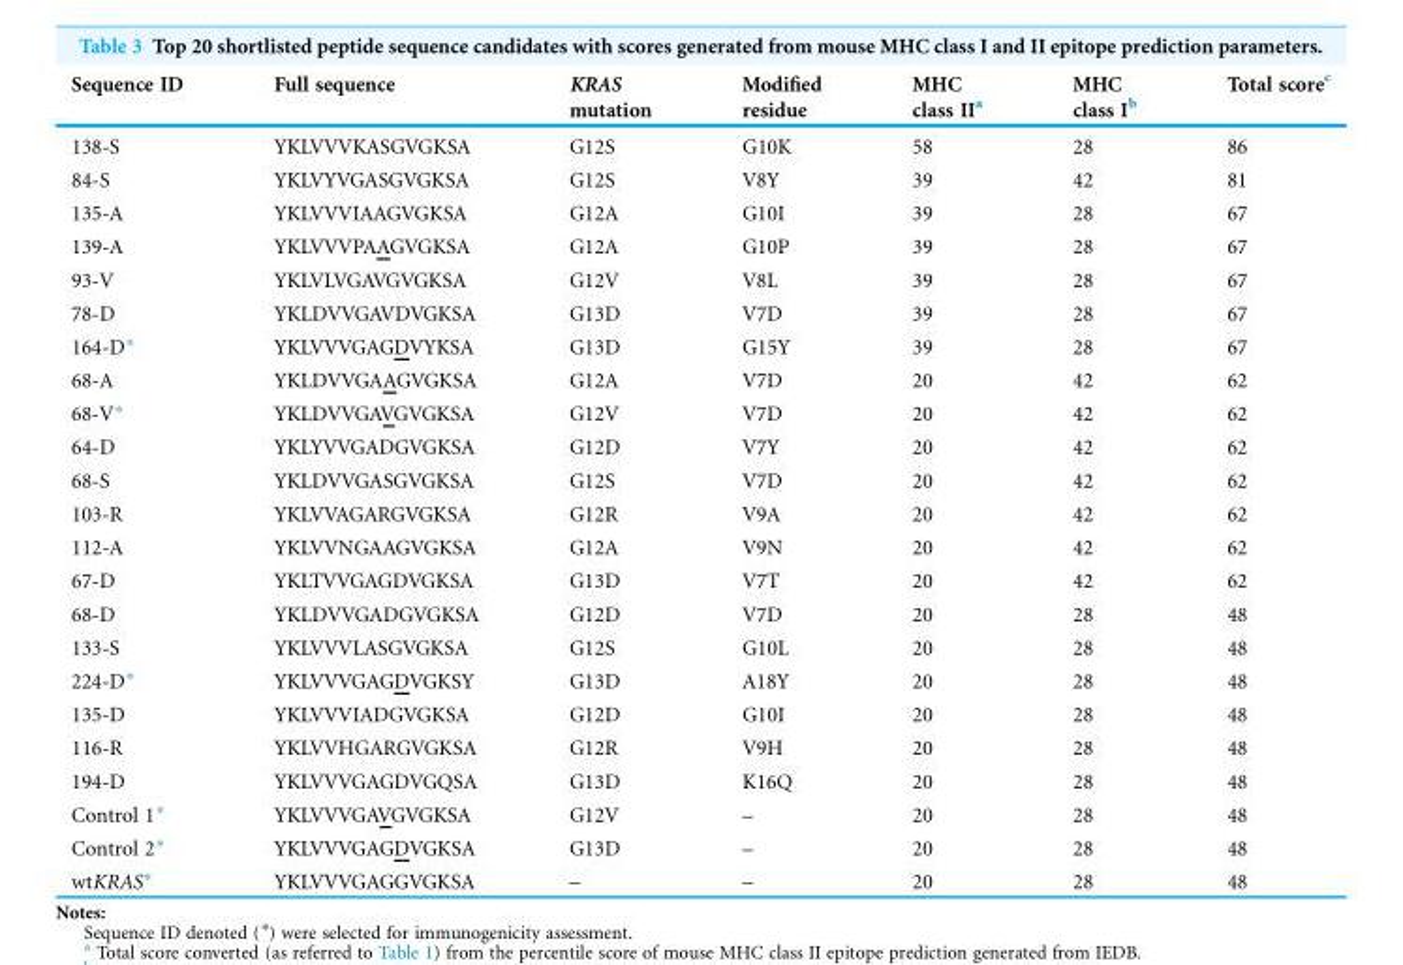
<table><thead><tr><td>Sequence ID</td><td>Full sequence</td><td>KRAS mutation</td><td>Modified residue</td><td>MHC class II<sup>a</sup></td><td>MHC class I<sup>b</sup></td><td>Total score<sup>c</sup></td></tr></thead><tbody><tr><td>138-S</td><td>YKLVVVKASGVGKSA</td><td>G12S</td><td>G10K</td><td>58</td><td>28</td><td>86</td></tr><tr><td>84-S</td><td>YKLVYVGASGVGKSA</td><td>G12S</td><td>V8Y</td><td>39</td><td>42</td><td>81</td></tr><tr><td>135-A</td><td>YKLVVVIAAGVGKSA</td><td>G12A</td><td>G10I</td><td>39</td><td>28</td><td>67</td></tr><tr><td>139-A</td><td>YKLVVVPAAGVGKSA</td><td>G12A</td><td>G10P</td><td>39</td><td>28</td><td>67</td></tr><tr><td>93-V</td><td>YKLVLVGAVGVGKSA</td><td>G12V</td><td>V8L</td><td>39</td><td>28</td><td>67</td></tr><tr><td>78-D</td><td>YKLDVVGAVDVGKSA</td><td>G13D</td><td>V7D</td><td>39</td><td>28</td><td>67</td></tr><tr><td>164-D*</td><td>YKLVVVGAGDVYKSA</td><td>G13D</td><td>G15Y</td><td>39</td><td>28</td><td>67</td></tr><tr><td>68-A</td><td>YKLDVVGAAGVGKSA</td><td>G12A</td><td>V7D</td><td>20</td><td>42</td><td>62</td></tr><tr><td>68-V*</td><td>YKLDVVGAVGVGKSA</td><td>G12V</td><td>V7D</td><td>20</td><td>42</td><td>62</td></tr><tr><td>64-D</td><td>YKLYVVGADGVGKSA</td><td>G12D</td><td>V7Y</td><td>20</td><td>42</td><td>62</td></tr><tr><td>68-S</td><td>YKLDVVGASGVGKSA</td><td>G12S</td><td>V7D</td><td>20</td><td>42</td><td>62</td></tr><tr><td>103-R</td><td>YKLVVAGARGVGKSA</td><td>G12R</td><td>V9A</td><td>20</td><td>42</td><td>62</td></tr><tr><td>112-A</td><td>YKLVVNGAAGVGKSA</td><td>G12A</td><td>V9N</td><td>20</td><td>42</td><td>62</td></tr><tr><td>67-D</td><td>YKLTVVGAGDVGKSA</td><td>G13D</td><td>V7T</td><td>20</td><td>42</td><td>62</td></tr><tr><td>68-D</td><td>YKLDVVGADGVGKSA</td><td>G12D</td><td>V7D</td><td>20</td><td>28</td><td>48</td></tr><tr><td>133-S</td><td>YKLVVVLASGVGKSA</td><td>G12S</td><td>G10L</td><td>20</td><td>28</td><td>48</td></tr><tr><td>224-D*</td><td>YKLVVVGAGDVGKSY</td><td>G13D</td><td>A18Y</td><td>20</td><td>28</td><td>48</td></tr><tr><td>135-D</td><td>YKLVVVIADGVGKSA</td><td>G12D</td><td>G10I</td><td>20</td><td>28</td><td>48</td></tr><tr><td>116-R</td><td>YKLVVHGARGVGKSA</td><td>G12R</td><td>V9H</td><td>20</td><td>28</td><td>48</td></tr><tr><td>194-D</td><td>YKLVVVGAGDVGQSA</td><td>G13D</td><td>K16Q</td><td>20</td><td>28</td><td>48</td></tr><tr><td>Control 1*</td><td>YKLVVVGAVGVGKSA</td><td>G12V</td><td>–</td><td>20</td><td>28</td><td>48</td></tr><tr><td>Control 2*</td><td>YKLVVVGAGDVGKSA</td><td>G13D</td><td>–</td><td>20</td><td>28</td><td>48</td></tr><tr><td>wtKRAS*</td><td>YKLVVVGAGGVGKSA</td><td>–</td><td>–</td><td>20</td><td>28</td><td>48</td></tr></tbody></table>